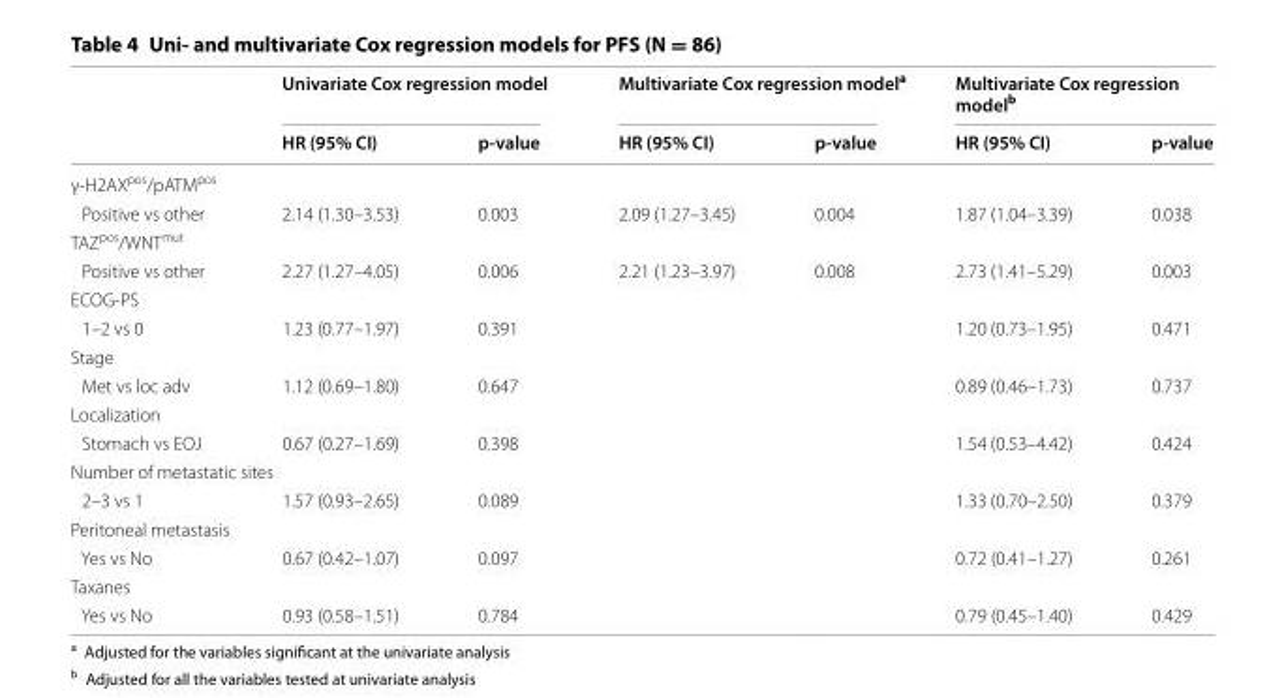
<table><thead><tr><td rowspan="2"></td><td colspan="2">Univariate Cox regression model</td><td colspan="2">Multivariate Cox regression model<sup>a</sup></td><td colspan="2">Multivariate Cox regression model<sup>b</sup></td></tr><tr><td>HR (95% CI)</td><td>p-value</td><td>HR (95% CI)</td><td>p-value</td><td>HR (95% CI)</td><td>p-value</td></tr></thead><tbody><tr><td colspan="7">γ‑H2AX<sup>pos</sup>/pATM<sup>pos</sup></td></tr><tr><td>Positive vs other</td><td>2.14 (1.30–3.53)</td><td>0.003</td><td>2.09 (1.27–3.45)</td><td>0.004</td><td>1.87 (1.04–3.39)</td><td>0.038</td></tr><tr><td colspan="7">TAZ<sup>pos</sup>/WNT<sup>mut</sup></td></tr><tr><td>Positive vs other</td><td>2.27 (1.27–4.05)</td><td>0.006</td><td>2.21 (1.23–3.97)</td><td>0.008</td><td>2.73 (1.41–5.29)</td><td>0.003</td></tr><tr><td colspan="7">ECOG‑PS</td></tr><tr><td>1–2 vs 0</td><td>1.23 (0.77–1.97)</td><td>0.391</td><td></td><td></td><td>1.20 (0.73–1.95)</td><td>0.471</td></tr><tr><td colspan="7">Stage</td></tr><tr><td>Met vs loc adv</td><td>1.12 (0.69–1.80)</td><td>0.647</td><td></td><td></td><td>0.89 (0.46–1.73)</td><td>0.737</td></tr><tr><td colspan="7">Localization</td></tr><tr><td>Stomach vs EOJ</td><td>0.67 (0.27–1.69)</td><td>0.398</td><td></td><td></td><td>1.54 (0.53–4.42)</td><td>0.424</td></tr><tr><td colspan="7">Number of metastatic sites</td></tr><tr><td>2–3 vs 1</td><td>1.57 (0.93–2.65)</td><td>0.089</td><td></td><td></td><td>1.33 (0.70–2.50)</td><td>0.379</td></tr><tr><td colspan="7">Peritoneal metastasis</td></tr><tr><td>Yes vs No</td><td>0.67 (0.42–1.07)</td><td>0.097</td><td></td><td></td><td>0.72 (0.41–1.27)</td><td>0.261</td></tr><tr><td colspan="7">Taxanes</td></tr><tr><td>Yes vs No</td><td>0.93 (0.58–1.51)</td><td>0.784</td><td></td><td></td><td>0.79 (0.45–1.40)</td><td>0.429</td></tr></tbody></table>